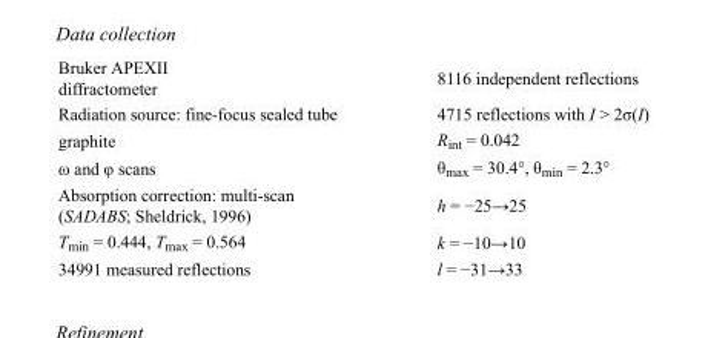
<table><tbody><tr><td>Bruker APEXII diffractometer</td><td>8116 independent reflections</td></tr><tr><td>Radiation source: fine-focus sealed tube</td><td>4715 reflections with I &gt; 2σ(I)</td></tr><tr><td>graphite</td><td>R<sub>int</sub> = 0.042</td></tr><tr><td>ω and φ scans</td><td>θ<sub>max</sub> = 30.4°, θ<sub>min</sub> = 2.3°</td></tr><tr><td>Absorption correction: multi-scan (SADABS; Sheldrick, 1996)</td><td>h = −25→25</td></tr><tr><td>T<sub>min</sub> = 0.444, T<sub>max</sub> = 0.564</td><td>k = −10→10</td></tr><tr><td>34991 measured reflections</td><td>l = −31→33</td></tr></tbody></table>